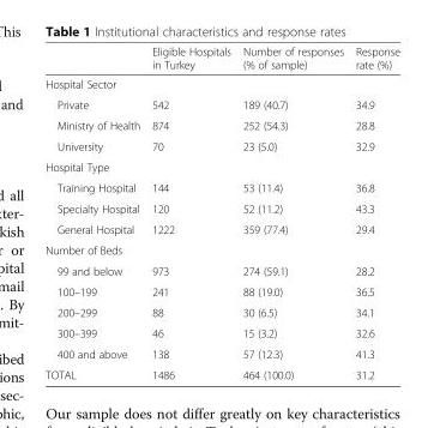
<table><thead><tr><td></td><td>Eligible Hospitals in Turkey</td><td>Number of responses (% of sample)</td><td>Response rate (%)</td></tr></thead><tbody><tr><td colspan="4">Hospital Sector</td></tr><tr><td>Private</td><td>542</td><td>189 (40.7)</td><td>34.9</td></tr><tr><td>Ministry of Health</td><td>874</td><td>252 (54.3)</td><td>28.8</td></tr><tr><td>University</td><td>70</td><td>23 (5.0)</td><td>32.9</td></tr><tr><td colspan="4">Hospital Type</td></tr><tr><td>Training Hospital</td><td>144</td><td>53 (11.4)</td><td>36.8</td></tr><tr><td>Specialty Hospital</td><td>120</td><td>52 (11.2)</td><td>43.3</td></tr><tr><td>General Hospital</td><td>1222</td><td>359 (77.4)</td><td>29.4</td></tr><tr><td colspan="4">Number of Beds</td></tr><tr><td>99 and below</td><td>973</td><td>274 (59.1)</td><td>28.2</td></tr><tr><td>100–199</td><td>241</td><td>88 (19.0)</td><td>36.5</td></tr><tr><td>200–299</td><td>88</td><td>30 (6.5)</td><td>34.1</td></tr><tr><td>300–399</td><td>46</td><td>15 (3.2)</td><td>32.6</td></tr><tr><td>400 and above</td><td>138</td><td>57 (12.3)</td><td>41.3</td></tr><tr><td>TOTAL</td><td>1486</td><td>464 (100.0)</td><td>31.2</td></tr></tbody></table>